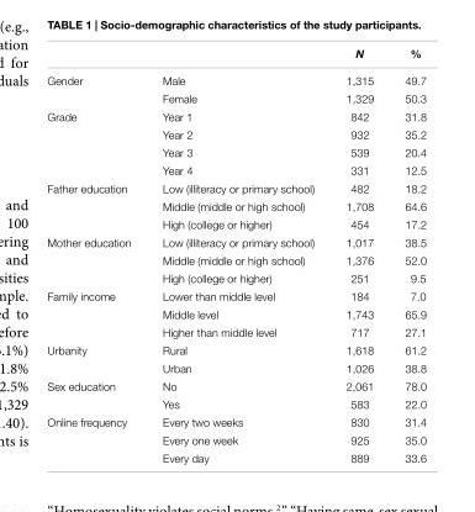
<table><thead><tr><td></td><td></td><td>N</td><td>%</td></tr></thead><tbody><tr><td rowspan="2">Gender</td><td>Male</td><td>1,315</td><td>49.7</td></tr><tr><td>Female</td><td>1,329</td><td>50.3</td></tr><tr><td rowspan="4">Grade</td><td>Year 1</td><td>842</td><td>31.8</td></tr><tr><td>Year 2</td><td>932</td><td>35.2</td></tr><tr><td>Year 3</td><td>539</td><td>20.4</td></tr><tr><td>Year 4</td><td>331</td><td>12.5</td></tr><tr><td rowspan="3">Father education</td><td>Low (illiteracy or primary school)</td><td>482</td><td>18.2</td></tr><tr><td>Middle (middle or high school)</td><td>1,708</td><td>64.6</td></tr><tr><td>High (college or higher)</td><td>454</td><td>17.2</td></tr><tr><td rowspan="3">Mother education</td><td>Low (illiteracy or primary school)</td><td>1,017</td><td>38.5</td></tr><tr><td>Middle (middle or high school)</td><td>1,376</td><td>52.0</td></tr><tr><td>High (college or higher)</td><td>251</td><td>9.5</td></tr><tr><td rowspan="3">Family income</td><td>Lower than middle level</td><td>184</td><td>7.0</td></tr><tr><td>Middle level</td><td>1,743</td><td>65.9</td></tr><tr><td>Higher than middle level</td><td>717</td><td>27.1</td></tr><tr><td rowspan="2">Urbanity</td><td>Rural</td><td>1,618</td><td>61.2</td></tr><tr><td>Urban</td><td>1,026</td><td>38.8</td></tr><tr><td rowspan="2">Sex education</td><td>No</td><td>2,061</td><td>78.0</td></tr><tr><td>Yes</td><td>583</td><td>22.0</td></tr><tr><td rowspan="3">Online frequency</td><td>Every two weeks</td><td>830</td><td>31.4</td></tr><tr><td>Every one week</td><td>925</td><td>35.0</td></tr><tr><td>Every day</td><td>889</td><td>33.6</td></tr></tbody></table>